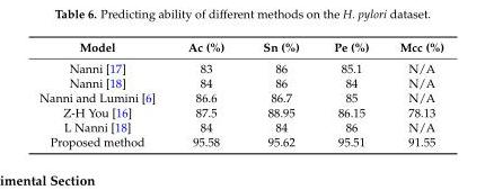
<table><thead><tr><td>Model</td><td>Ac (%)</td><td>Sn (%)</td><td>Pe (%)</td><td>Mcc (%)</td></tr></thead><tbody><tr><td>Nanni [17]</td><td>83</td><td>86</td><td>85.1</td><td>N/A</td></tr><tr><td>Nanni [18]</td><td>84</td><td>86</td><td>84</td><td>N/A</td></tr><tr><td>Nanni and Lumini [6]</td><td>86.6</td><td>86.7</td><td>85</td><td>N/A</td></tr><tr><td>Z-H You [16]</td><td>87.5</td><td>88.95</td><td>86.15</td><td>78.13</td></tr><tr><td>L Nanni [18]</td><td>84</td><td>84</td><td>86</td><td>N/A</td></tr><tr><td>Proposed method</td><td>95.58</td><td>95.62</td><td>95.51</td><td>91.55</td></tr></tbody></table>